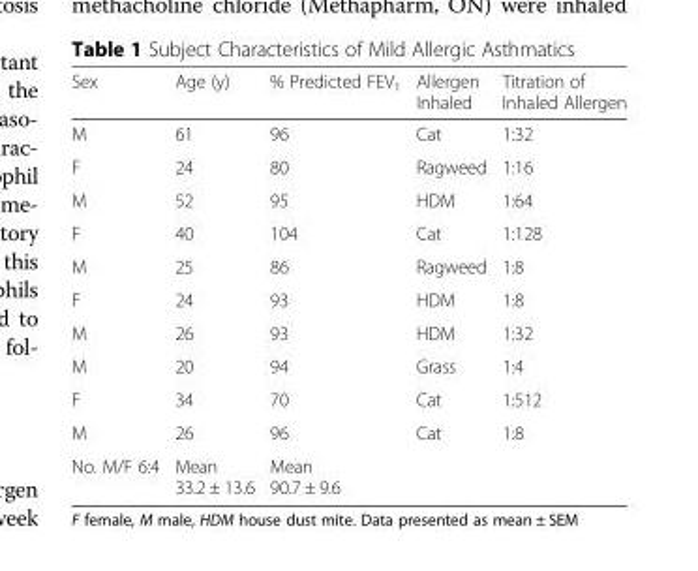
<table><thead><tr><td>Sex</td><td>Age (y)</td><td>% Predicted FEV<sub>1</sub></td><td>Allergen Inhaled</td><td>Titration of Inhaled Allergen</td></tr></thead><tbody><tr><td>M</td><td>61</td><td>96</td><td>Cat</td><td>1:32</td></tr><tr><td>F</td><td>24</td><td>80</td><td>Ragweed</td><td>1:16</td></tr><tr><td>M</td><td>52</td><td>95</td><td>HDM</td><td>1:64</td></tr><tr><td>F</td><td>40</td><td>104</td><td>Cat</td><td>1:128</td></tr><tr><td>M</td><td>25</td><td>86</td><td>Ragweed</td><td>1:8</td></tr><tr><td>F</td><td>24</td><td>93</td><td>HDM</td><td>1:8</td></tr><tr><td>M</td><td>26</td><td>93</td><td>HDM</td><td>1:32</td></tr><tr><td>M</td><td>20</td><td>94</td><td>Grass</td><td>1:4</td></tr><tr><td>F</td><td>34</td><td>70</td><td>Cat</td><td>1:512</td></tr><tr><td>M</td><td>26</td><td>96</td><td>Cat</td><td>1:8</td></tr><tr><td>No. M/F 6:4</td><td>Mean 33.2 ± 13.6</td><td>Mean 90.7 ± 9.6</td><td></td><td></td></tr></tbody></table>